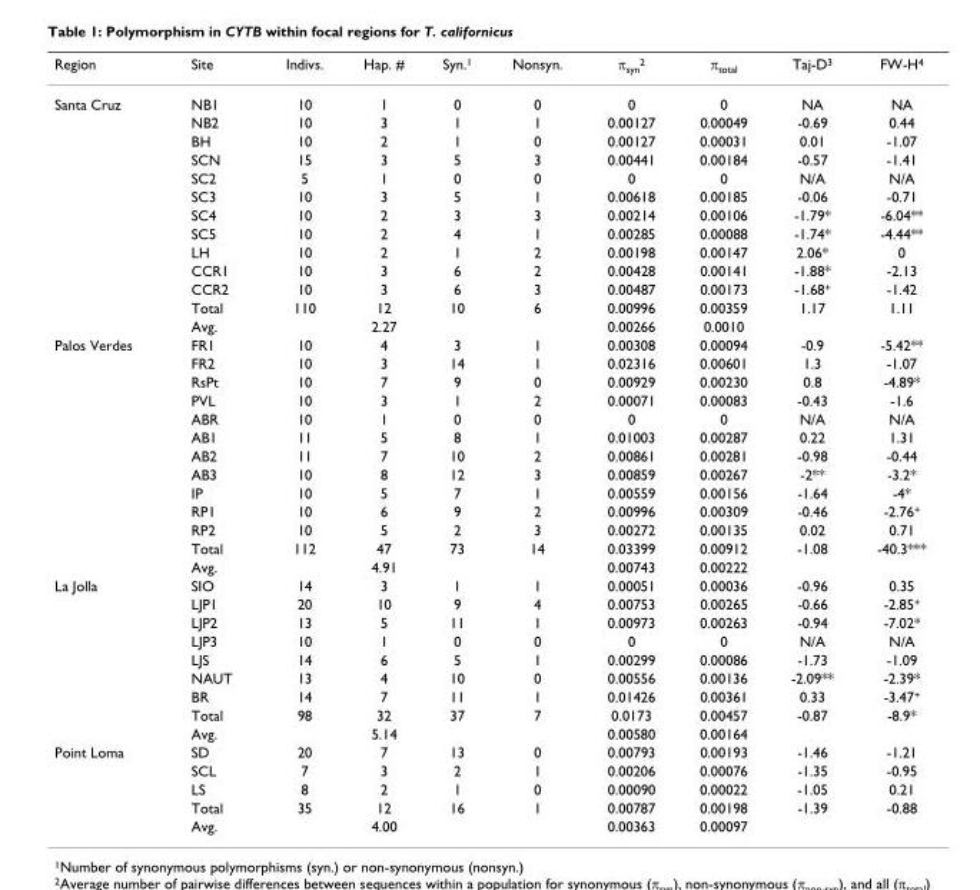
<table><thead><tr><td>Region</td><td>Site</td><td>Indivs.</td><td>Hap. #</td><td>Syn.<sup>1</sup></td><td>Nonsyn.</td><td>π<sub>syn</sub><sup>2</sup></td><td>π<sub>total</sub></td><td>Taj-D<sup>3</sup></td><td>FW-H<sup>4</sup></td></tr></thead><tbody><tr><td rowspan="13">Santa Cruz</td><td>NB1</td><td>10</td><td>1</td><td>0</td><td>0</td><td>0</td><td>0</td><td>NA</td><td>NA</td></tr><tr><td>NB2</td><td>10</td><td>3</td><td>1</td><td>1</td><td>0.00127</td><td>0.00049</td><td>-0.69</td><td>0.44</td></tr><tr><td>BH</td><td>10</td><td>2</td><td>1</td><td>0</td><td>0.00127</td><td>0.00031</td><td>0.01</td><td>-1.07</td></tr><tr><td>SCN</td><td>15</td><td>3</td><td>5</td><td>3</td><td>0.00441</td><td>0.00184</td><td>-0.57</td><td>-1.41</td></tr><tr><td>SC2</td><td>5</td><td>1</td><td>0</td><td>0</td><td>0</td><td>0</td><td>N/A</td><td>N/A</td></tr><tr><td>SC3</td><td>10</td><td>3</td><td>5</td><td>1</td><td>0.00618</td><td>0.00185</td><td>-0.06</td><td>-0.71</td></tr><tr><td>SC4</td><td>10</td><td>2</td><td>3</td><td>3</td><td>0.00214</td><td>0.00106</td><td>-1.79*</td><td>-6.04**</td></tr><tr><td>SC5</td><td>10</td><td>2</td><td>4</td><td>1</td><td>0.00285</td><td>0.00088</td><td>-1.74*</td><td>-4.44**</td></tr><tr><td>LH</td><td>10</td><td>2</td><td>1</td><td>2</td><td>0.00198</td><td>0.00147</td><td>2.06*</td><td>0</td></tr><tr><td>CCR1</td><td>10</td><td>3</td><td>6</td><td>2</td><td>0.00428</td><td>0.00141</td><td>-1.88*</td><td>-2.13</td></tr><tr><td>CCR2</td><td>10</td><td>3</td><td>6</td><td>3</td><td>0.00487</td><td>0.00173</td><td>-1.68<sup>+</sup></td><td>-1.42</td></tr><tr><td>Total</td><td>110</td><td>12</td><td>10</td><td>6</td><td>0.00996</td><td>0.00359</td><td>1.17</td><td>1.11</td></tr><tr><td>Avg.</td><td></td><td>2.27</td><td></td><td></td><td>0.00266</td><td>0.0010</td><td></td><td></td></tr><tr><td rowspan="13">Palos Verdes</td><td>FR1</td><td>10</td><td>4</td><td>3</td><td>1</td><td>0.00308</td><td>0.00094</td><td>-0.9</td><td>-5.42**</td></tr><tr><td>FR2</td><td>10</td><td>3</td><td>14</td><td>1</td><td>0.02316</td><td>0.00601</td><td>1.3</td><td>-1.07</td></tr><tr><td>RsPt</td><td>10</td><td>7</td><td>9</td><td>0</td><td>0.00929</td><td>0.00230</td><td>0.8</td><td>-4.89*</td></tr><tr><td>PVL</td><td>10</td><td>3</td><td>1</td><td>2</td><td>0.00071</td><td>0.00083</td><td>-0.43</td><td>-1.6</td></tr><tr><td>ABR</td><td>10</td><td>1</td><td>0</td><td>0</td><td>0</td><td>0</td><td>N/A</td><td>N/A</td></tr><tr><td>AB1</td><td>11</td><td>5</td><td>8</td><td>1</td><td>0.01003</td><td>0.00287</td><td>0.22</td><td>1.31</td></tr><tr><td>AB2</td><td>11</td><td>7</td><td>10</td><td>2</td><td>0.00861</td><td>0.00281</td><td>-0.98</td><td>-0.44</td></tr><tr><td>AB3</td><td>10</td><td>8</td><td>12</td><td>3</td><td>0.00859</td><td>0.00267</td><td>-2**</td><td>-3.2*</td></tr><tr><td>IP</td><td>10</td><td>5</td><td>7</td><td>1</td><td>0.00559</td><td>0.00156</td><td>-1.64</td><td>-4*</td></tr><tr><td>RP1</td><td>10</td><td>6</td><td>9</td><td>2</td><td>0.00996</td><td>0.00309</td><td>-0.46</td><td>-2.76<sup>+</sup></td></tr><tr><td>RP2</td><td>10</td><td>5</td><td>2</td><td>3</td><td>0.00272</td><td>0.00135</td><td>0.02</td><td>0.71</td></tr><tr><td>Total</td><td>112</td><td>47</td><td>73</td><td>14</td><td>0.03399</td><td>0.00912</td><td>-1.08</td><td>-40.3***</td></tr><tr><td>Avg.</td><td></td><td>4.91</td><td></td><td></td><td>0.00743</td><td>0.00222</td><td></td><td></td></tr><tr><td rowspan="9">La Jolla</td><td>SIO</td><td>14</td><td>3</td><td>1</td><td>1</td><td>0.00051</td><td>0.00036</td><td>-0.96</td><td>0.35</td></tr><tr><td>LJP1</td><td>20</td><td>10</td><td>9</td><td>4</td><td>0.00753</td><td>0.00265</td><td>-0.66</td><td>-2.85<sup>+</sup></td></tr><tr><td>LJP2</td><td>13</td><td>5</td><td>11</td><td>1</td><td>0.00973</td><td>0.00263</td><td>-0.94</td><td>-7.02*</td></tr><tr><td>LJP3</td><td>10</td><td>1</td><td>0</td><td>0</td><td>0</td><td>0</td><td>N/A</td><td>N/A</td></tr><tr><td>LJS</td><td>14</td><td>6</td><td>5</td><td>1</td><td>0.00299</td><td>0.00086</td><td>-1.73</td><td>-1.09</td></tr><tr><td>NAUT</td><td>13</td><td>4</td><td>10</td><td>0</td><td>0.00556</td><td>0.00136</td><td>-2.09**</td><td>-2.39*</td></tr><tr><td>BR</td><td>14</td><td>7</td><td>11</td><td>1</td><td>0.01426</td><td>0.00361</td><td>0.33</td><td>-3.47<sup>+</sup></td></tr><tr><td>Total</td><td>98</td><td>32</td><td>37</td><td>7</td><td>0.0173</td><td>0.00457</td><td>-0.87</td><td>-8.9*</td></tr><tr><td>Avg.</td><td></td><td>5.14</td><td></td><td></td><td>0.00580</td><td>0.00164</td><td></td><td></td></tr><tr><td rowspan="5">Point Loma</td><td>SD</td><td>20</td><td>7</td><td>13</td><td>0</td><td>0.00793</td><td>0.00193</td><td>-1.46</td><td>-1.21</td></tr><tr><td>SCL</td><td>7</td><td>3</td><td>2</td><td>1</td><td>0.00206</td><td>0.00076</td><td>-1.35</td><td>-0.95</td></tr><tr><td>LS</td><td>8</td><td>2</td><td>1</td><td>0</td><td>0.00090</td><td>0.00022</td><td>-1.05</td><td>0.21</td></tr><tr><td>Total</td><td>35</td><td>12</td><td>16</td><td>1</td><td>0.00787</td><td>0.00198</td><td>-1.39</td><td>-0.88</td></tr><tr><td>Avg.</td><td></td><td>4.00</td><td></td><td></td><td>0.00363</td><td>0.00097</td><td></td><td></td></tr></tbody></table>